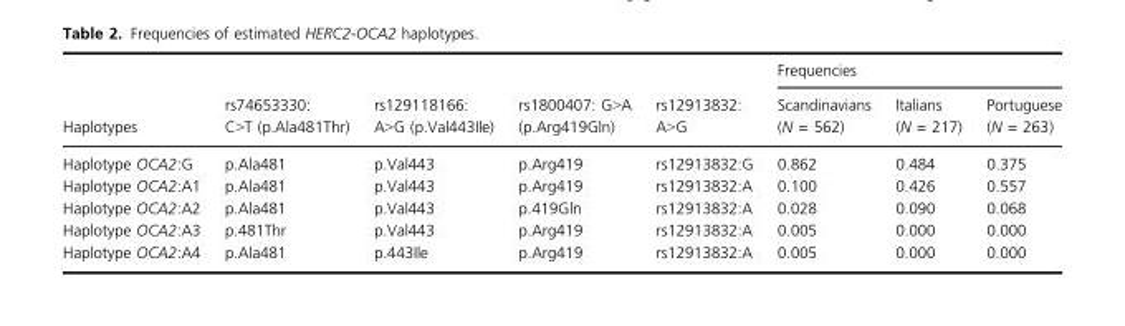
<table><thead><tr><td rowspan="2">Haplotypes</td><td rowspan="2">rs74653330: C&gt;T (p.Ala481Thr)</td><td rowspan="2">rs129118166: A&gt;G (p.Val443Ile)</td><td rowspan="2">rs1800407: G&gt;A (p.Arg419Gln)</td><td rowspan="2">rs12913832: A&gt;G</td><td colspan="3">Frequencies</td></tr><tr><td>Scandinavians (N = 562)</td><td>Italians (N = 217)</td><td>Portuguese (N = 263)</td></tr></thead><tbody><tr><td>Haplotype OCA2:G</td><td>p.Ala481</td><td>p.Val443</td><td>p.Arg419</td><td>rs12913832:G</td><td>0.862</td><td>0.484</td><td>0.375</td></tr><tr><td>Haplotype OCA2:A1</td><td>p.Ala481</td><td>p.Val443</td><td>p.Arg419</td><td>rs12913832:A</td><td>0.100</td><td>0.426</td><td>0.557</td></tr><tr><td>Haplotype OCA2:A2</td><td>p.Ala481</td><td>p.Val443</td><td>p.419Gln</td><td>rs12913832:A</td><td>0.028</td><td>0.090</td><td>0.068</td></tr><tr><td>Haplotype OCA2:A3</td><td>p.481Thr</td><td>p.Val443</td><td>p.Arg419</td><td>rs12913832:A</td><td>0.005</td><td>0.000</td><td>0.000</td></tr><tr><td>Haplotype OCA2:A4</td><td>p.Ala481</td><td>p.443Ile</td><td>p.Arg419</td><td>rs12913832:A</td><td>0.005</td><td>0.000</td><td>0.000</td></tr></tbody></table>